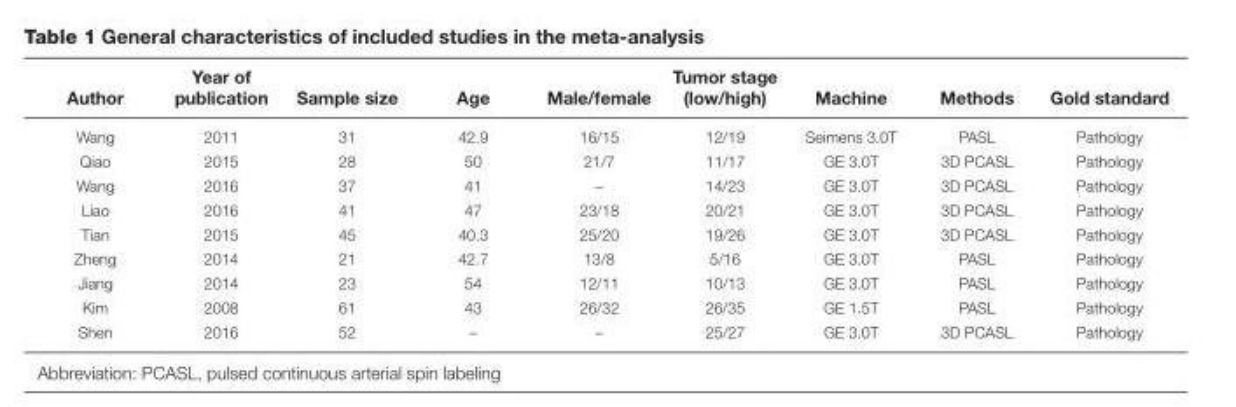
<table><thead><tr><td>Author</td><td>Year of publication</td><td>Sample size</td><td>Age</td><td>Male/female</td><td>Tumor stage (low/high)</td><td>Machine</td><td>Methods</td><td>Gold standard</td></tr></thead><tbody><tr><td>Wang</td><td>2011</td><td>31</td><td>42.9</td><td>16/15</td><td>12/19</td><td>Seimens 3.0T</td><td>PASL</td><td>Pathology</td></tr><tr><td>Qiao</td><td>2015</td><td>28</td><td>50</td><td>21/7</td><td>11/17</td><td>GE 3.0T</td><td>3D PCASL</td><td>Pathology</td></tr><tr><td>Wang</td><td>2016</td><td>37</td><td>41</td><td>–</td><td>14/23</td><td>GE 3.0T</td><td>3D PCASL</td><td>Pathology</td></tr><tr><td>Liao</td><td>2016</td><td>41</td><td>47</td><td>23/18</td><td>20/21</td><td>GE 3.0T</td><td>3D PCASL</td><td>Pathology</td></tr><tr><td>Tian</td><td>2015</td><td>45</td><td>40.3</td><td>25/20</td><td>19/26</td><td>GE 3.0T</td><td>3D PCASL</td><td>Pathology</td></tr><tr><td>Zheng</td><td>2014</td><td>21</td><td>42.7</td><td>13/8</td><td>5/16</td><td>GE 3.0T</td><td>PASL</td><td>Pathology</td></tr><tr><td>Jiang</td><td>2014</td><td>23</td><td>54</td><td>12/11</td><td>10/13</td><td>GE 3.0T</td><td>PASL</td><td>Pathology</td></tr><tr><td>Kim</td><td>2008</td><td>61</td><td>43</td><td>26/32</td><td>26/35</td><td>GE 1.5T</td><td>PASL</td><td>Pathology</td></tr><tr><td>Shen</td><td>2016</td><td>52</td><td>–</td><td>–</td><td>25/27</td><td>GE 3.0T</td><td>3D PCASL</td><td>Pathology</td></tr></tbody></table>